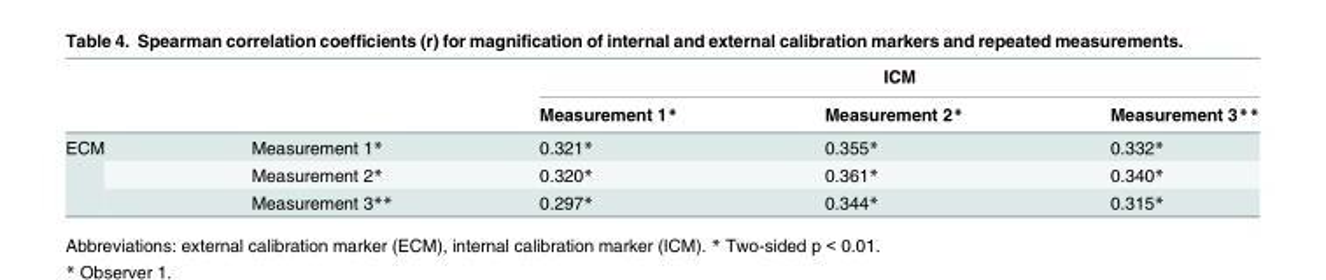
<table><thead><tr><td rowspan="2"></td><td rowspan="2"></td><td colspan="3">ICM</td></tr><tr><td>Measurement 1*</td><td>Measurement 2*</td><td>Measurement 3**</td></tr></thead><tbody><tr><td rowspan="3">ECM</td><td>Measurement 1*</td><td>0.321*</td><td>0.355*</td><td>0.332*</td></tr><tr><td>Measurement 2*</td><td>0.320*</td><td>0.361*</td><td>0.340*</td></tr><tr><td>Measurement 3**</td><td>0.297*</td><td>0.344*</td><td>0.315*</td></tr></tbody></table>